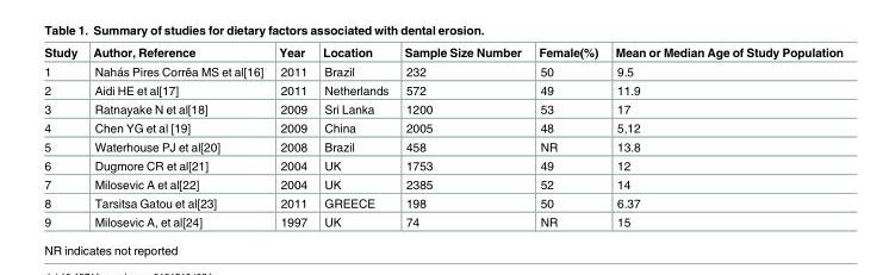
<table><thead><tr><td>Study</td><td>Author, Reference</td><td>Year</td><td>Location</td><td>Sample Size Number</td><td>Female(%)</td><td>Mean or Median Age of Study Population</td></tr></thead><tbody><tr><td>1</td><td>Nahás Pires Corrêa MS et al[16]</td><td>2011</td><td>Brazil</td><td>232</td><td>50</td><td>9.5</td></tr><tr><td>2</td><td>Aidi HE et al[17]</td><td>2011</td><td>Netherlands</td><td>572</td><td>49</td><td>11.9</td></tr><tr><td>3</td><td>Ratnayake N et al[18]</td><td>2009</td><td>Sri Lanka</td><td>1200</td><td>53</td><td>17</td></tr><tr><td>4</td><td>Chen YG et al [19]</td><td>2009</td><td>China</td><td>2005</td><td>48</td><td>5,12</td></tr><tr><td>5</td><td>Waterhouse PJ et al[20]</td><td>2008</td><td>Brazil</td><td>458</td><td>NR</td><td>13.8</td></tr><tr><td>6</td><td>Dugmore CR et al[21]</td><td>2004</td><td>UK</td><td>1753</td><td>49</td><td>12</td></tr><tr><td>7</td><td>Milosevic A et al[22]</td><td>2004</td><td>UK</td><td>2385</td><td>52</td><td>14</td></tr><tr><td>8</td><td>Tarsitsa Gatou et al[23]</td><td>2011</td><td>GREECE</td><td>198</td><td>50</td><td>6.37</td></tr><tr><td>9</td><td>Milosevic A, et al[24]</td><td>1997</td><td>UK</td><td>74</td><td>NR</td><td>15</td></tr></tbody></table>